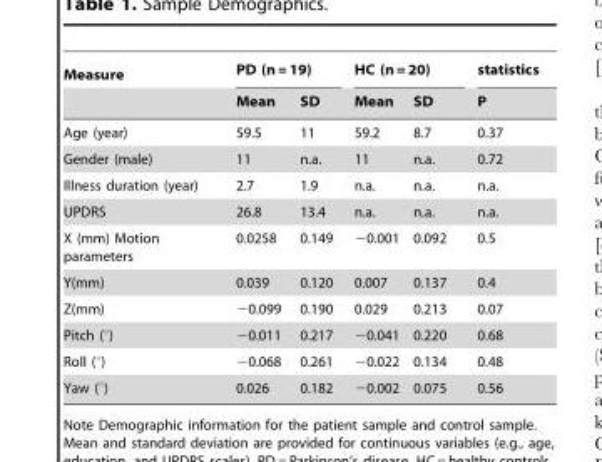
<table><thead><tr><td rowspan="2">Measure</td><td colspan="2">PD (n = 19)</td><td colspan="2">HC (n = 20)</td><td rowspan="2">statistics P</td></tr><tr><td>Mean</td><td>SD</td><td>Mean</td><td>SD</td></tr></thead><tbody><tr><td>Age (year)</td><td>59.5</td><td>11</td><td>59.2</td><td>8.7</td><td>0.37</td></tr><tr><td>Gender (male)</td><td>11</td><td>n.a.</td><td>11</td><td>n.a.</td><td>0.72</td></tr><tr><td>Illness duration (year)</td><td>2.7</td><td>1.9</td><td>n.a.</td><td>n.a.</td><td>n.a.</td></tr><tr><td>UPDRS</td><td>26.8</td><td>13.4</td><td>n.a.</td><td>n.a.</td><td>n.a.</td></tr><tr><td>X (mm) Motion parameters</td><td>0.0258</td><td>0.149</td><td>−0.001</td><td>0.092</td><td>0.5</td></tr><tr><td>Y(mm)</td><td>0.039</td><td>0.120</td><td>0.007</td><td>0.137</td><td>0.4</td></tr><tr><td>Z(mm)</td><td>−0.099</td><td>0.190</td><td>0.029</td><td>0.213</td><td>0.07</td></tr><tr><td>Pitch (°)</td><td>−0.011</td><td>0.217</td><td>−0.041</td><td>0.220</td><td>0.68</td></tr><tr><td>Roll (°)</td><td>−0.068</td><td>0.261</td><td>−0.022</td><td>0.134</td><td>0.48</td></tr><tr><td>Yaw (°)</td><td>0.026</td><td>0.182</td><td>−0.002</td><td>0.075</td><td>0.56</td></tr></tbody></table>